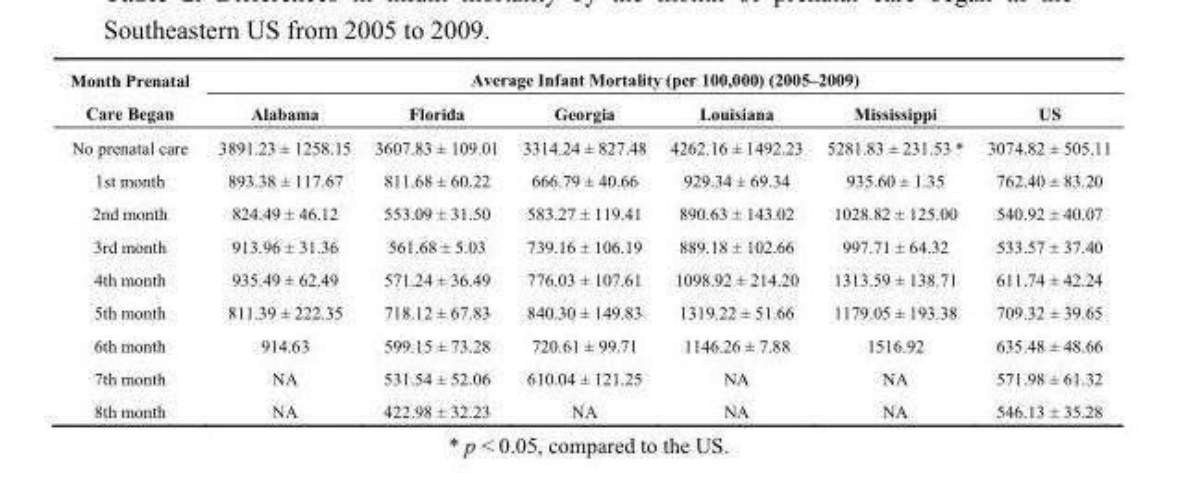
<table><thead><tr><td rowspan="2">Month Prenatal Care Began</td><td colspan="6">Average Infant Mortality (per 100,000) (2005–2009)</td></tr><tr><td>Alabama</td><td>Florida</td><td>Georgia</td><td>Louisiana</td><td>Mississippi</td><td>US</td></tr></thead><tbody><tr><td>No prenatal care</td><td>3891.23 ± 1258.15</td><td>3607.83 ± 109.01</td><td>3314.24 ± 827.48</td><td>4262.16 ± 1492.23</td><td>5281.83 ± 231.53 *</td><td>3074.82 ± 505.11</td></tr><tr><td>1st month</td><td>893.38 ± 117.67</td><td>811.68 ± 60.22</td><td>666.79 ± 40.66</td><td>929.34 ± 69.34</td><td>935.60 ± 1.35</td><td>762.40 ± 83.20</td></tr><tr><td>2nd month</td><td>824.49 ± 46.12</td><td>553.09 ± 31.50</td><td>583.27 ± 119.41</td><td>890.63 ± 143.02</td><td>1028.82 ± 125.00</td><td>540.92 ± 40.07</td></tr><tr><td>3rd month</td><td>913.96 ± 31.36</td><td>561.68 ± 5.03</td><td>739.16 ± 106.19</td><td>889.18 ± 102.66</td><td>997.71 ± 64.32</td><td>533.57 ± 37.40</td></tr><tr><td>4th month</td><td>935.49 ± 62.49</td><td>571.24 ± 36.49</td><td>776.03 ± 107.61</td><td>1098.92 ± 214.20</td><td>1313.59 ± 138.71</td><td>611.74 ± 42.24</td></tr><tr><td>5th month</td><td>811.39 ± 222.35</td><td>718.12 ± 67.83</td><td>840.30 ± 149.83</td><td>1319.22 ± 51.66</td><td>1179.05 ± 193.38</td><td>709.32 ± 39.65</td></tr><tr><td>6th month</td><td>914.63</td><td>599.15 ± 73.28</td><td>720.61 ± 99.71</td><td>1146.26 ± 7.88</td><td>1516.92</td><td>635.48 ± 48.66</td></tr><tr><td>7th month</td><td>NA</td><td>531.54 ± 52.06</td><td>610.04 ± 121.25</td><td>NA</td><td>NA</td><td>571.98 ± 61.32</td></tr><tr><td>8th month</td><td>NA</td><td>422.98 ± 32.23</td><td>NA</td><td>NA</td><td>NA</td><td>546.13 ± 35.28</td></tr></tbody></table>